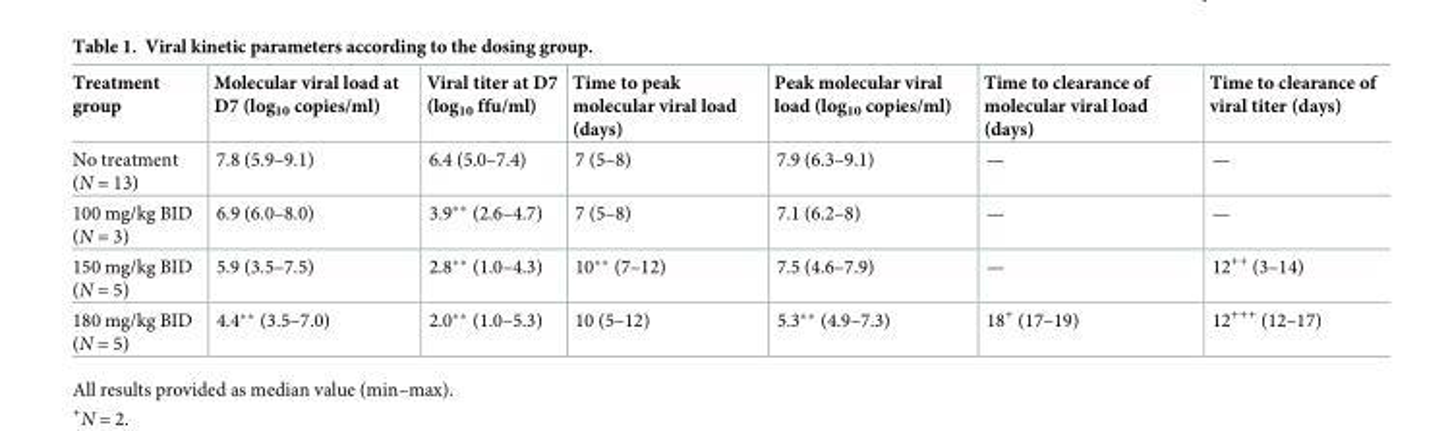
<table><thead><tr><td>Treatment group</td><td>Molecular viral load at D7 (log<sub>10</sub> copies/ml)</td><td>Viral titer at D7 (log<sub>10</sub> ffu/ml)</td><td>Time to peak molecular viral load (days)</td><td>Peak molecular viral load (log<sub>10</sub> copies/ml)</td><td>Time to clearance of molecular viral load (days)</td><td>Time to clearance of viral titer (days)</td></tr></thead><tbody><tr><td>No treatment (N = 13)</td><td>7.8 (5.9–9.1)</td><td>6.4 (5.0–7.4)</td><td>7 (5–8)</td><td>7.9 (6.3–9.1)</td><td>—</td><td>—</td></tr><tr><td>100 mg/kg BID (N = 3)</td><td>6.9 (6.0–8.0)</td><td>3.9** (2.6–4.7)</td><td>7 (5–8)</td><td>7.1 (6.2–8)</td><td>—</td><td>—</td></tr><tr><td>150 mg/kg BID (N = 5)</td><td>5.9 (3.5–7.5)</td><td>2.8** (1.0–4.3)</td><td>10** (7–12)</td><td>7.5 (4.6–7.9)</td><td>—</td><td>12<sup>++</sup> (3–14)</td></tr><tr><td>180 mg/kg BID (N = 5)</td><td>4.4** (3.5–7.0)</td><td>2.0** (1.0–5.3)</td><td>10 (5–12)</td><td>5.3** (4.9–7.3)</td><td>18<sup>+</sup> (17–19)</td><td>12<sup>+++</sup> (12–17)</td></tr></tbody></table>